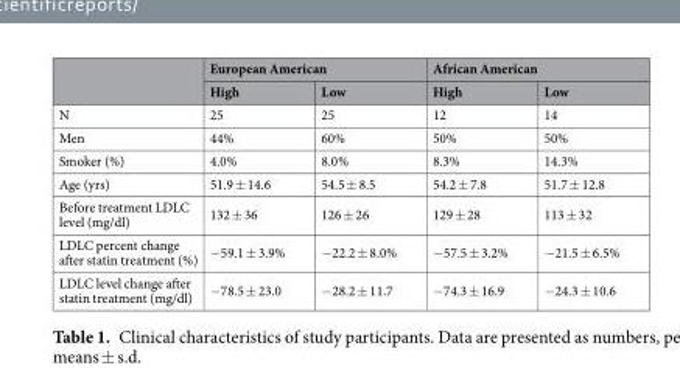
<table><thead><tr><td rowspan="2"></td><td colspan="2">European American</td><td colspan="2">African American</td></tr><tr><td>High</td><td>Low</td><td>High</td><td>Low</td></tr></thead><tbody><tr><td>N</td><td>25</td><td>25</td><td>12</td><td>14</td></tr><tr><td>Men</td><td>44%</td><td>60%</td><td>50%</td><td>50%</td></tr><tr><td>Smoker (%)</td><td>4.0%</td><td>8.0%</td><td>8.3%</td><td>14.3%</td></tr><tr><td>Age (yrs)</td><td>51.9 ± 14.6</td><td>54.5 ± 8.5</td><td>54.2 ± 7.8</td><td>51.7 ± 12.8</td></tr><tr><td>Before treatment LDLC level (mg/dl)</td><td>132 ± 36</td><td>126 ± 26</td><td>129 ± 28</td><td>113 ± 32</td></tr><tr><td>LDLC percent change after statin treatment (%)</td><td>−59.1 ± 3.9%</td><td>−22.2 ± 8.0%</td><td>−57.5 ± 3.2%</td><td>−21.5 ± 6.5%</td></tr><tr><td>LDLC level change after statin treatment (mg/dl)</td><td>−78.5 ± 23.0</td><td>−28.2 ± 11.7</td><td>−74.3 ± 16.9</td><td>−24.3 ± 10.6</td></tr></tbody></table>